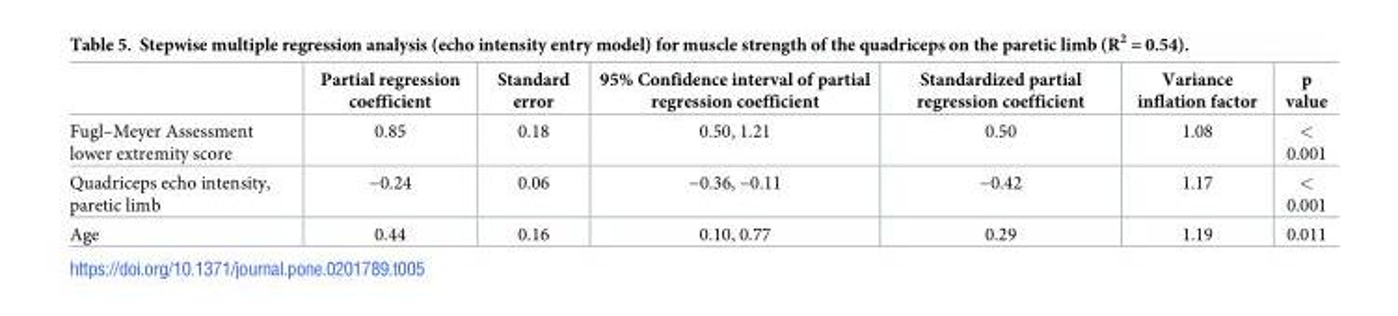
<table><thead><tr><td></td><td>Partial regression coefficient</td><td>Standard error</td><td>95% Confidence interval of partial regression coefficient</td><td>Standardized partial regression coefficient</td><td>Variance inflation factor</td><td>p value</td></tr></thead><tbody><tr><td>Fugl–Meyer Assessment lower extremity score</td><td>0.85</td><td>0.18</td><td>0.50, 1.21</td><td>0.50</td><td>1.08</td><td>&lt; 0.001</td></tr><tr><td>Quadriceps echo intensity, paretic limb</td><td>−0.24</td><td>0.06</td><td>−0.36, −0.11</td><td>−0.42</td><td>1.17</td><td>&lt; 0.001</td></tr><tr><td>Age</td><td>0.44</td><td>0.16</td><td>0.10, 0.77</td><td>0.29</td><td>1.19</td><td>0.011</td></tr></tbody></table>